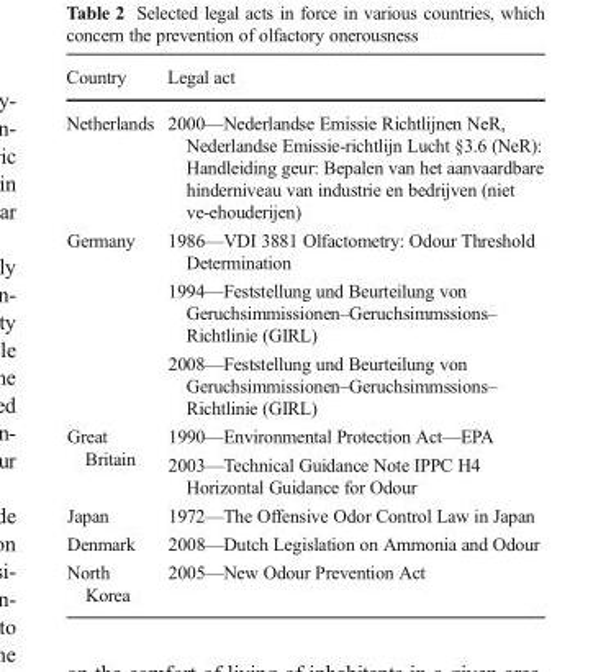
<table><thead><tr><td>Country</td><td>Legal act</td></tr></thead><tbody><tr><td>Netherlands</td><td>2000—Nederlandse Emissie Richtlijnen NeR, Nederlandse Emissie-richtlijn Lucht §3.6 (NeR): Handleiding geur: Bepalen van het aanvaardbare hinderniveau van industrie en bedrijven (niet ve-ehouderijen)</td></tr><tr><td rowspan="3">Germany</td><td>1986—VDI 3881 Olfactometry: Odour Threshold Determination</td></tr><tr><td>1994—Feststellung und Beurteilung von Geruchsimmissionen–Geruchsimmssions– Richtlinie (GIRL)</td></tr><tr><td>2008—Feststellung und Beurteilung von Geruchsimmissionen–Geruchsimmssions– Richtlinie (GIRL)</td></tr><tr><td rowspan="2">Great Britain</td><td>1990—Environmental Protection Act—EPA</td></tr><tr><td>2003—Technical Guidance Note IPPC H4 Horizontal Guidance for Odour</td></tr><tr><td>Japan</td><td>1972—The Offensive Odor Control Law in Japan</td></tr><tr><td>Denmark</td><td>2008—Dutch Legislation on Ammonia and Odour</td></tr><tr><td>North Korea</td><td>2005—New Odour Prevention Act</td></tr></tbody></table>